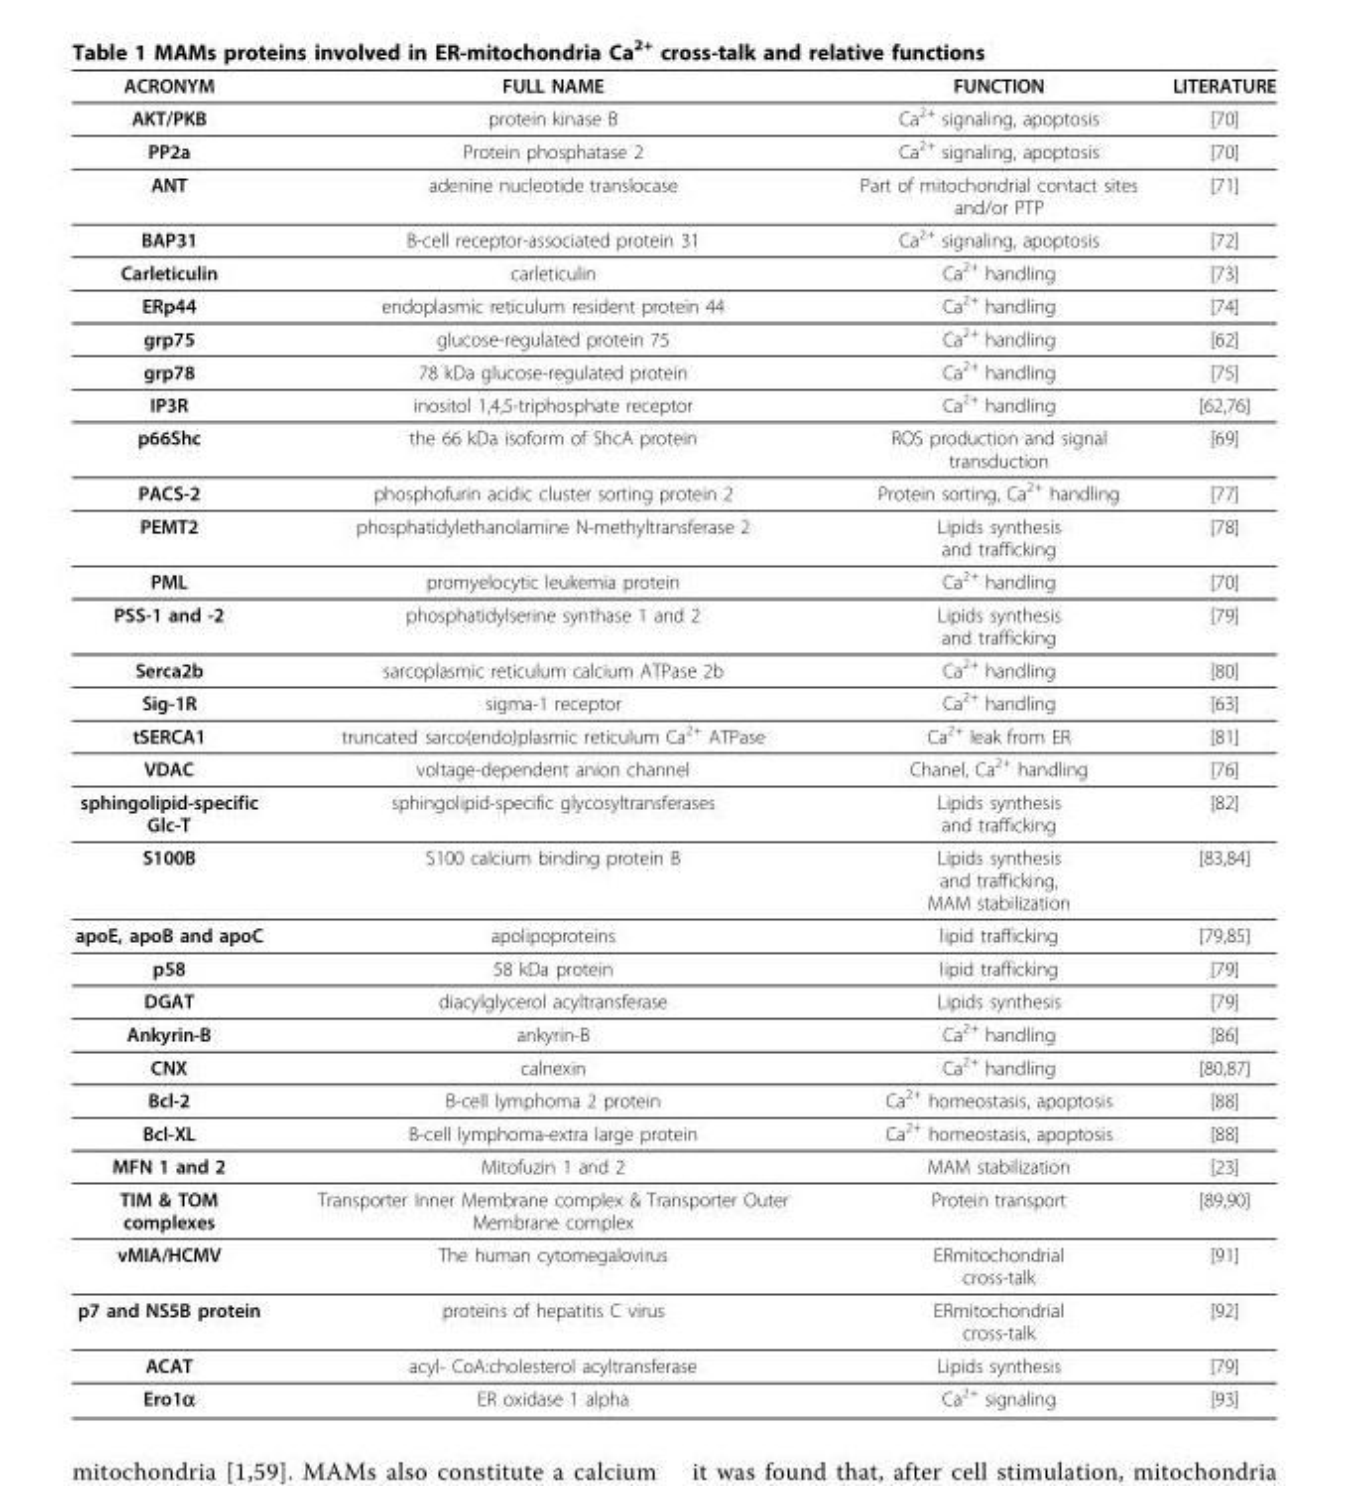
<table><thead><tr><td>ACRONYM</td><td>FULL NAME</td><td>FUNCTION</td><td>LITERATURE</td></tr></thead><tbody><tr><td>AKT/PKB</td><td>protein kinase B</td><td>Ca<sup>2+</sup> signaling, apoptosis</td><td>[70]</td></tr><tr><td>PP2a</td><td>Protein phosphatase 2</td><td>Ca<sup>2+</sup> signaling, apoptosis</td><td>[70]</td></tr><tr><td>ANT</td><td>adenine nucleotide translocase</td><td>Part of mitochondrial contact sites and/or PTP</td><td>[71]</td></tr><tr><td>BAP31</td><td>B-cell receptor-associated protein 31</td><td>Ca<sup>2+</sup> signaling, apoptosis</td><td>[72]</td></tr><tr><td>Carleticulin</td><td>carleticulin</td><td>Ca<sup>2+</sup> handling</td><td>[73]</td></tr><tr><td>ERp44</td><td>endoplasmic reticulum resident protein 44</td><td>Ca<sup>2+</sup> handling</td><td>[74]</td></tr><tr><td>grp75</td><td>glucose-regulated protein 75</td><td>Ca<sup>2+</sup> handling</td><td>[62]</td></tr><tr><td>grp78</td><td>78 kDa glucose-regulated protein</td><td>Ca<sup>2+</sup> handling</td><td>[75]</td></tr><tr><td>IP3R</td><td>inositol 1,4,5-triphosphate receptor</td><td>Ca<sup>2+</sup> handling</td><td>[62,76]</td></tr><tr><td>p66Shc</td><td>the 66 kDa isoform of ShcA protein</td><td>ROS production and signal transduction</td><td>[69]</td></tr><tr><td>PACS-2</td><td>phosphofurin acidic cluster sorting protein 2</td><td>Protein sorting, Ca<sup>2+</sup> handling</td><td>[77]</td></tr><tr><td>PEMT2</td><td>phosphatidylethanolamine N-methyltransferase 2</td><td>Lipids synthesis and trafficking</td><td>[78]</td></tr><tr><td>PML</td><td>promyelocytic leukemia protein</td><td>Ca<sup>2+</sup> handling</td><td>[70]</td></tr><tr><td>PSS-1 and -2</td><td>phosphatidylserine synthase 1 and 2</td><td>Lipids synthesis and trafficking</td><td>[79]</td></tr><tr><td>Serca2b</td><td>sarcoplasmic reticulum calcium ATPase 2b</td><td>Ca<sup>2+</sup> handling</td><td>[80]</td></tr><tr><td>Sig-1R</td><td>sigma-1 receptor</td><td>Ca<sup>2+</sup> handling</td><td>[63]</td></tr><tr><td>tSERCA1</td><td>truncated sarco(endo)plasmic reticulum Ca<sup>2+</sup> ATPase</td><td>Ca<sup>2+</sup> leak from ER</td><td>[81]</td></tr><tr><td>VDAC</td><td>voltage-dependent anion channel</td><td>Chanel, Ca<sup>2+</sup> handling</td><td>[76]</td></tr><tr><td>sphingolipid-specific Glc-T</td><td>sphingolipid-specific glycosyltransferases</td><td>Lipids synthesis and trafficking</td><td>[82]</td></tr><tr><td>S100B</td><td>S100 calcium binding protein B</td><td>Lipids synthesis and trafficking, MAM stabilization</td><td>[83,84]</td></tr><tr><td>apoE, apoB and apoC</td><td>apolipoproteins</td><td>lipid trafficking</td><td>[79,85]</td></tr><tr><td>p58</td><td>58 kDa protein</td><td>lipid trafficking</td><td>[79]</td></tr><tr><td>DGAT</td><td>diacylglycerol acyltransferase</td><td>Lipids synthesis</td><td>[79]</td></tr><tr><td>Ankyrin-B</td><td>ankyrin-B</td><td>Ca<sup>2+</sup> handling</td><td>[86]</td></tr><tr><td>CNX</td><td>calnexin</td><td>Ca<sup>2+</sup> handling</td><td>[80,87]</td></tr><tr><td>Bcl-2</td><td>B-cell lymphoma 2 protein</td><td>Ca<sup>2+</sup> homeostasis, apoptosis</td><td>[88]</td></tr><tr><td>Bcl-XL</td><td>B-cell lymphoma-extra large protein</td><td>Ca<sup>2+</sup> homeostasis, apoptosis</td><td>[88]</td></tr><tr><td>MFN 1 and 2</td><td>Mitofuzin 1 and 2</td><td>MAM stabilization</td><td>[23]</td></tr><tr><td>TIM &amp; TOM complexes</td><td>Transporter Inner Membrane complex &amp; Transporter Outer Membrane complex</td><td>Protein transport</td><td>[89,90]</td></tr><tr><td>vMIA/HCMV</td><td>The human cytomegalovirus</td><td>ERmitochondrial cross-talk</td><td>[91]</td></tr><tr><td>p7 and NS5B protein</td><td>proteins of hepatitis C virus</td><td>ERmitochondrial cross-talk</td><td>[92]</td></tr><tr><td>ACAT</td><td>acyl- CoA:cholesterol acyltransferase</td><td>Lipids synthesis</td><td>[79]</td></tr><tr><td>Ero1α</td><td>ER oxidase 1 alpha</td><td>Ca<sup>2+</sup> signaling</td><td>[93]</td></tr></tbody></table>